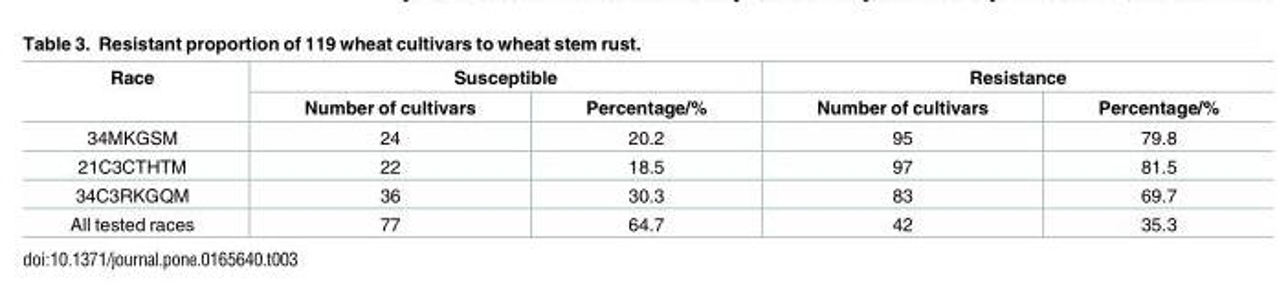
<table><thead><tr><td rowspan="2">Race</td><td colspan="2">Susceptible</td><td colspan="2">Resistance</td></tr><tr><td>Number of cultivars</td><td>Percentage/%</td><td>Number of cultivars</td><td>Percentage/%</td></tr></thead><tbody><tr><td>34MKGSM</td><td>24</td><td>20.2</td><td>95</td><td>79.8</td></tr><tr><td>21C3CTHTM</td><td>22</td><td>18.5</td><td>97</td><td>81.5</td></tr><tr><td>34C3RKGQM</td><td>36</td><td>30.3</td><td>83</td><td>69.7</td></tr><tr><td>All tested races</td><td>77</td><td>64.7</td><td>42</td><td>35.3</td></tr></tbody></table>